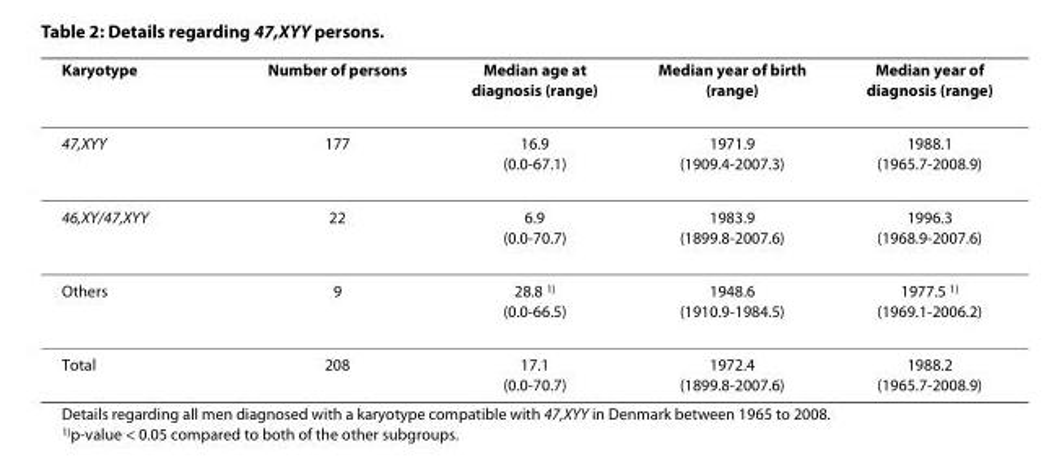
<table><thead><tr><td>Karyotype</td><td>Number of persons</td><td>Median age at diagnosis (range)</td><td>Median year of birth (range)</td><td>Median year of diagnosis (range)</td></tr></thead><tbody><tr><td>47,XYY</td><td>177</td><td>16.9 (0.0-67.1)</td><td>1971.9 (1909.4-2007.3)</td><td>1988.1 (1965.7-2008.9)</td></tr><tr><td>46,XY/47,XYY</td><td>22</td><td>6.9 (0.0-70.7)</td><td>1983.9 (1899.8-2007.6)</td><td>1996.3 (1968.9-2007.6)</td></tr><tr><td>Others</td><td>9</td><td>28.8 <sup>1)</sup> (0.0-66.5)</td><td>1948.6 (1910.9-1984.5)</td><td>1977.5 <sup>1)</sup> (1969.1-2006.2)</td></tr><tr><td>Total</td><td>208</td><td>17.1 (0.0-70.7)</td><td>1972.4 (1899.8-2007.6)</td><td>1988.2 (1965.7-2008.9)</td></tr></tbody></table>